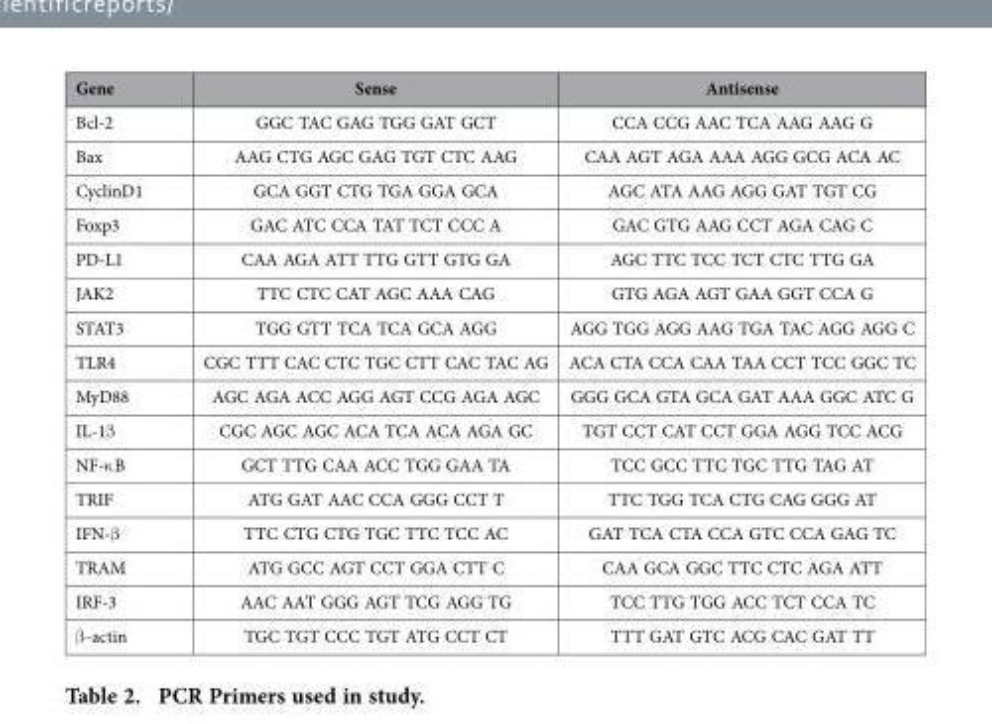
<table><thead><tr><td>Gene</td><td>Sense</td><td>Antisense</td></tr></thead><tbody><tr><td>Bcl-2</td><td>GGC TAC GAG TGG GAT GCT</td><td>CCA CCG AAC TCA AAG AAG G</td></tr><tr><td>Bax</td><td>AAG CTG AGC GAG TGT CTC AAG</td><td>CAA AGT AGA AAA AGG GCG ACA AC</td></tr><tr><td>CyclinD1</td><td>GCA GGT CTG TGA GGA GCA</td><td>AGC ATA AAG AGG GAT TGT CG</td></tr><tr><td>Foxp3</td><td>GAC ATC CCA TAT TCT CCC A</td><td>GAC GTG AAG CCT AGA CAG C</td></tr><tr><td>PD-L1</td><td>CAA AGA ATT TTG GTT GTG GA</td><td>AGC TTC TCC TCT CTC TTG GA</td></tr><tr><td>JAK2</td><td>TTC CTC CAT AGC AAA CAG</td><td>GTG AGA AGT GAA GGT CCA G</td></tr><tr><td>STAT3</td><td>TGG GTT TCA TCA GCA AGG</td><td>AGG TGG AGG AAG TGA TAC AGG AGG C</td></tr><tr><td>TLR4</td><td>CGC TTT CAC CTC TGC CTT CAC TAC AG</td><td>ACA CTA CCA CAA TAA CCT TCC GGC TC</td></tr><tr><td>MyD88</td><td>AGC AGA ACC AGG AGT CCG AGA AGC</td><td>GGG GCA GTA GCA GAT AAA GGC ATC G</td></tr><tr><td>IL-1β</td><td>CGC AGC AGC ACA TCA ACA AGA GC</td><td>TGT CCT CAT CCT GGA AGG TCC ACG</td></tr><tr><td>NF-κ B</td><td>GCT TTG CAA ACC TGG GAA TA</td><td>TCC GCC TTC TGC TTG TAG AT</td></tr><tr><td>TRIF</td><td>ATG GAT AAC CCA GGG CCT T</td><td>TTC TGG TCA CTG CAG GGG AT</td></tr><tr><td>IFN-β</td><td>TTC CTG CTG TGC TTC TCC AC</td><td>GAT TCA CTA CCA GTC CCA GAG TC</td></tr><tr><td>TRAM</td><td>ATG GCC AGT CCT GGA CTT C</td><td>CAA GCA GGC TTC CTC AGA ATT</td></tr><tr><td>IRF-3</td><td>AAC AAT GGG AGT TCG AGG TG</td><td>TCC TTG TGG ACC TCT CCA TC</td></tr><tr><td>β -actin</td><td>TGC TGT CCC TGT ATG CCT CT</td><td>TTT GAT GTC ACG CAC GAT TT</td></tr></tbody></table>